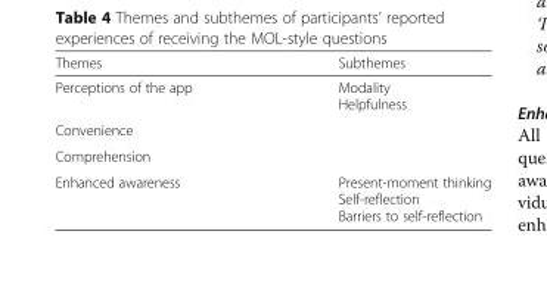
<table><thead><tr><td>Themes</td><td>Subthemes</td></tr></thead><tbody><tr><td>Perceptions of the app</td><td>Modality Helpfulness</td></tr><tr><td colspan="2">Convenience</td></tr><tr><td colspan="2">Comprehension</td></tr><tr><td>Enhanced awareness</td><td>Present-moment thinking Self-reflection Barriers to self-reflection</td></tr></tbody></table>